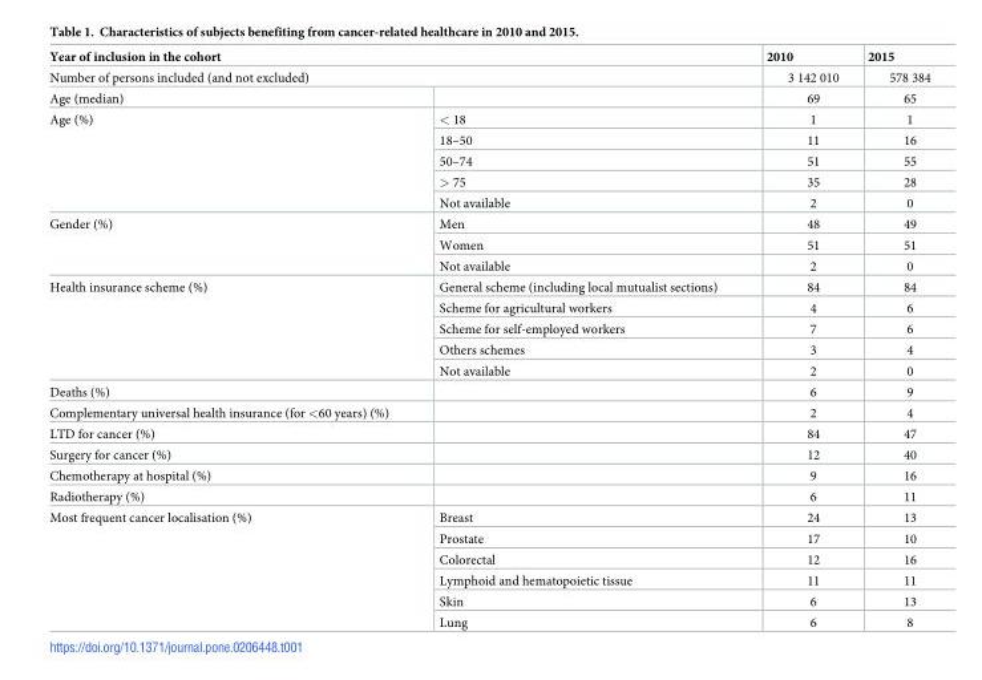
<table><thead><tr><td rowspan="2" colspan="2">Year of inclusion in the cohort Number of persons included (and not excluded)</td><td rowspan="3">2010 3 142 010 69</td><td rowspan="3">2015 578 384 65</td></tr><tr></tr><tr><td>Age (median)</td><td></td></tr></thead><tbody><tr><td rowspan="5">Age (%)</td><td>&lt; 18</td><td>1</td><td>1</td></tr><tr><td>18–50</td><td>11</td><td>16</td></tr><tr><td>50–74</td><td>51</td><td>55</td></tr><tr><td>&gt; 75</td><td>35</td><td>28</td></tr><tr><td>Not available</td><td>2</td><td>0</td></tr><tr><td rowspan="3">Gender (%)</td><td>Men</td><td>48</td><td>49</td></tr><tr><td>Women</td><td>51</td><td>51</td></tr><tr><td>Not available</td><td>2</td><td>0</td></tr><tr><td rowspan="5">Health insurance scheme (%)</td><td>General scheme (including local mutualist sections)</td><td>84</td><td>84</td></tr><tr><td>Scheme for agricultural workers</td><td>4</td><td>6</td></tr><tr><td>Scheme for self-employed workers</td><td>7</td><td>6</td></tr><tr><td>Others schemes</td><td>3</td><td>4</td></tr><tr><td>Not available</td><td>2</td><td>0</td></tr><tr><td>Deaths (%)</td><td></td><td>6</td><td>9</td></tr><tr><td>Complementary universal health insurance (for &lt;60 years) (%)</td><td></td><td>2</td><td>4</td></tr><tr><td>LTD for cancer (%)</td><td></td><td>84</td><td>47</td></tr><tr><td>Surgery for cancer (%)</td><td></td><td>12</td><td>40</td></tr><tr><td>Chemotherapy at hospital (%)</td><td></td><td>9</td><td>16</td></tr><tr><td>Radiotherapy (%)</td><td></td><td>6</td><td>11</td></tr><tr><td rowspan="6">Most frequent cancer localisation (%)</td><td>Breast</td><td>24</td><td>13</td></tr><tr><td>Prostate</td><td>17</td><td>10</td></tr><tr><td>Colorectal</td><td>12</td><td>16</td></tr><tr><td>Lymphoid and hematopoietic tissue</td><td>11</td><td>11</td></tr><tr><td>Skin</td><td>6</td><td>13</td></tr><tr><td>Lung</td><td>6</td><td>8</td></tr></tbody></table>